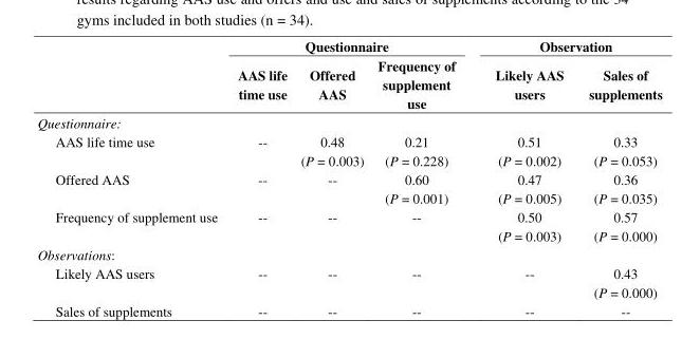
<table><thead><tr><td rowspan="2"></td><td colspan="3">Questionnaire</td><td colspan="2">Observation</td></tr><tr><td>AAS life time use</td><td>Offered AAS</td><td>Frequency of supplement use</td><td>Likely AAS users</td><td>Sales of supplements</td></tr></thead><tbody><tr><td colspan="6">Questionnaire:</td></tr><tr><td>AAS life time use</td><td>--</td><td>0.48 (P = 0.003)</td><td>0.21 (P = 0.228)</td><td>0.51 (P = 0.002)</td><td>0.33 (P = 0.053)</td></tr><tr><td>Offered AAS</td><td>--</td><td>--</td><td>0.60 (P = 0.001)</td><td>0.47 (P = 0.005)</td><td>0.36 (P = 0.035)</td></tr><tr><td>Frequency of supplement use</td><td>--</td><td>--</td><td>--</td><td>0.50 (P = 0.003)</td><td>0.57 (P = 0.000)</td></tr><tr><td colspan="6">Observations:</td></tr><tr><td>Likely AAS users</td><td>--</td><td>--</td><td>--</td><td>--</td><td>0.43 (P = 0.000)</td></tr><tr><td>Sales of supplements</td><td>--</td><td>--</td><td>--</td><td>--</td><td>--</td></tr></tbody></table>